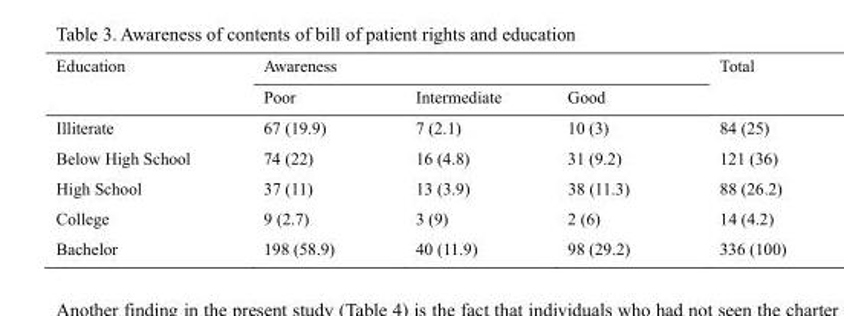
<table><thead><tr><td rowspan="2">Education</td><td colspan="3">Awareness</td><td rowspan="2">Total</td></tr><tr><td>Poor</td><td>Intermediate</td><td>Good</td></tr></thead><tbody><tr><td>Illiterate</td><td>67 (19.9)</td><td>7 (2.1)</td><td>10 (3)</td><td>84 (25)</td></tr><tr><td>Below High School</td><td>74 (22)</td><td>16 (4.8)</td><td>31 (9.2)</td><td>121 (36)</td></tr><tr><td>High School</td><td>37 (11)</td><td>13 (3.9)</td><td>38 (11.3)</td><td>88 (26.2)</td></tr><tr><td>College</td><td>9 (2.7)</td><td>3 (9)</td><td>2 (6)</td><td>14 (4.2)</td></tr><tr><td>Bachelor</td><td>198 (58.9)</td><td>40 (11.9)</td><td>98 (29.2)</td><td>336 (100)</td></tr></tbody></table>